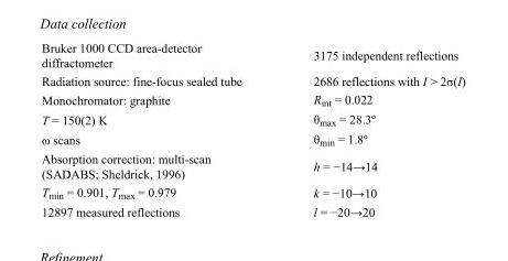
<table><tbody><tr><td>Bruker 1000 CCD area-detector diffractometer</td><td>3175 independent reflections</td></tr><tr><td>Radiation source: fine-focus sealed tube</td><td>2686 reflections with I &gt; 2σ(I)</td></tr><tr><td>Monochromator: graphite</td><td>R<sub>int</sub> = 0.022</td></tr><tr><td>T = 150(2) K</td><td>θ<sub>max</sub> = 28.3º</td></tr><tr><td>ω scans</td><td>θ<sub>min</sub> = 1.8º</td></tr><tr><td>Absorption correction: multi-scan (SADABS; Sheldrick, 1996)</td><td>h = −14→14</td></tr><tr><td>T<sub>min</sub> = 0.901, T<sub>max</sub> = 0.979</td><td>k = −10→10</td></tr><tr><td>12897 measured reflections</td><td>l = −20→20</td></tr></tbody></table>